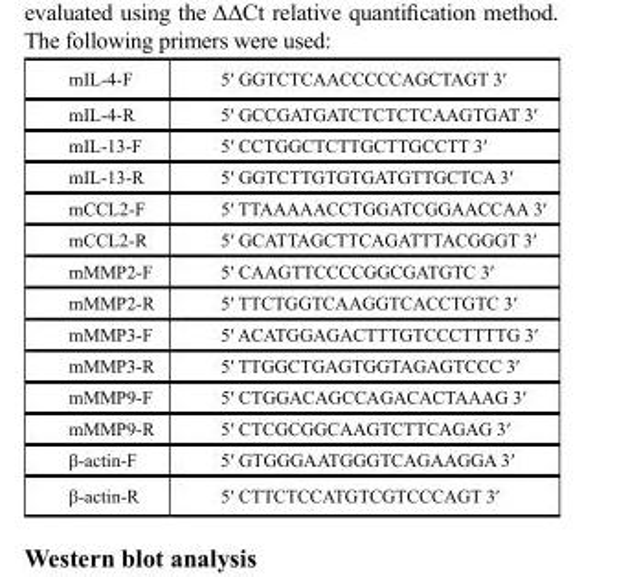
<table><tbody><tr><td>mIL-4-F</td><td>5′ GGTCTCAACCCCCAGCTAGT 3′</td></tr><tr><td>mIL-4-R</td><td>5′ GCCGATGATCTCTCTCAAGTGAT 3′</td></tr><tr><td>mIL-13-F</td><td>5′ CCTGGCTCTTGCTTGCCTT 3′</td></tr><tr><td>mIL-13-R</td><td>5′ GGTCTTGTGTGATGTTGCTCA 3′</td></tr><tr><td>mCCL2-F</td><td>5′ TTAAAAACCTGGATCGGAACCAA 3′</td></tr><tr><td>mCCL2-R</td><td>5′ GCATTAGCTTCAGATTTACGGGT 3′</td></tr><tr><td>mMMP2-F</td><td>5′ CAAGTTCCCCGGCGATGTC 3′</td></tr><tr><td>mMMP2-R</td><td>5′ TTCTGGTCAAGGTCACCTGTC 3′</td></tr><tr><td>mMMP3-F</td><td>5′ ACATGGAGACTTTGTCCCTTTTG 3′</td></tr><tr><td>mMMP3-R</td><td>5′ TTGGCTGAGTGGTAGAGTCCC 3′</td></tr><tr><td>mMMP9-F</td><td>5′ CTGGACAGCCAGACACTAAAG 3′</td></tr><tr><td>mMMP9-R</td><td>5′ CTCGCGGCAAGTCTTCAGAG 3′</td></tr><tr><td>β-actin-F</td><td>5′ GTGGGAATGGGTCAGAAGGA 3′</td></tr><tr><td>β-actin-R</td><td>5′ CTTCTCCATGTCGTCCCAGT 3′</td></tr></tbody></table>